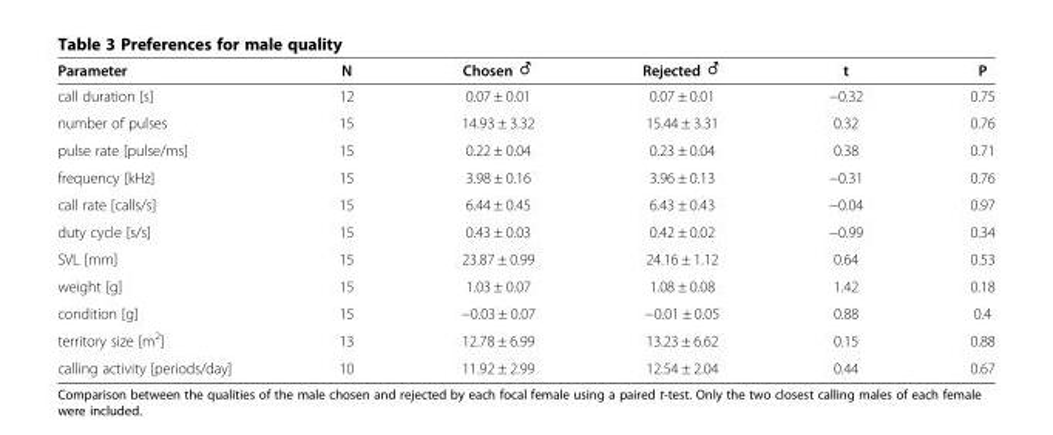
<table><thead><tr><td>Parameter</td><td>N</td><td>Chosen ♂</td><td>Rejected ♂</td><td>t</td><td>P</td></tr></thead><tbody><tr><td>call duration [s]</td><td>12</td><td>0.07 ± 0.01</td><td>0.07 ± 0.01</td><td>−0.32</td><td>0.75</td></tr><tr><td>number of pulses</td><td>15</td><td>14.93 ± 3.32</td><td>15.44 ± 3.31</td><td>0.32</td><td>0.76</td></tr><tr><td>pulse rate [pulse/ms]</td><td>15</td><td>0.22 ± 0.04</td><td>0.23 ± 0.04</td><td>0.38</td><td>0.71</td></tr><tr><td>frequency [kHz]</td><td>15</td><td>3.98 ± 0.16</td><td>3.96 ± 0.13</td><td>−0.31</td><td>0.76</td></tr><tr><td>call rate [calls/s]</td><td>15</td><td>6.44 ± 0.45</td><td>6.43 ± 0.43</td><td>−0.04</td><td>0.97</td></tr><tr><td>duty cycle [s/s]</td><td>15</td><td>0.43 ± 0.03</td><td>0.42 ± 0.02</td><td>−0.99</td><td>0.34</td></tr><tr><td>SVL [mm]</td><td>15</td><td>23.87 ± 0.99</td><td>24.16 ± 1.12</td><td>0.64</td><td>0.53</td></tr><tr><td>weight [g]</td><td>15</td><td>1.03 ± 0.07</td><td>1.08 ± 0.08</td><td>1.42</td><td>0.18</td></tr><tr><td>condition [g]</td><td>15</td><td>−0.03 ± 0.07</td><td>−0.01 ± 0.05</td><td>0.88</td><td>0.4</td></tr><tr><td>territory size [m<sup>2</sup>]</td><td>13</td><td>12.78 ± 6.99</td><td>13.23 ± 6.62</td><td>0.15</td><td>0.88</td></tr><tr><td>calling activity [periods/day]</td><td>10</td><td>11.92 ± 2.99</td><td>12.54 ± 2.04</td><td>0.44</td><td>0.67</td></tr></tbody></table>